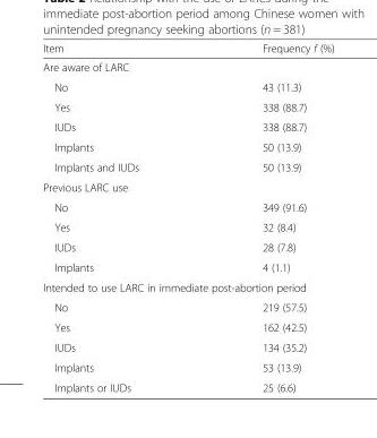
<table><thead><tr><td>Item</td><td>Frequency f (%)</td></tr></thead><tbody><tr><td colspan="2">Are aware of LARC</td></tr><tr><td>No</td><td>43 (11.3)</td></tr><tr><td>Yes</td><td>338 (88.7)</td></tr><tr><td>IUDs</td><td>338 (88.7)</td></tr><tr><td>Implants</td><td>50 (13.9)</td></tr><tr><td>Implants and IUDs</td><td>50 (13.9)</td></tr><tr><td colspan="2">Previous LARC use</td></tr><tr><td>No</td><td>349 (91.6)</td></tr><tr><td>Yes</td><td>32 (8.4)</td></tr><tr><td>IUDs</td><td>28 (7.8)</td></tr><tr><td>Implants</td><td>4 (1.1)</td></tr><tr><td colspan="2">Intended to use LARC in immediate post-abortion period</td></tr><tr><td>No</td><td>219 (57.5)</td></tr><tr><td>Yes</td><td>162 (42.5)</td></tr><tr><td>IUDs</td><td>134 (35.2)</td></tr><tr><td>Implants</td><td>53 (13.9)</td></tr><tr><td>Implants or IUDs</td><td>25 (6.6)</td></tr></tbody></table>